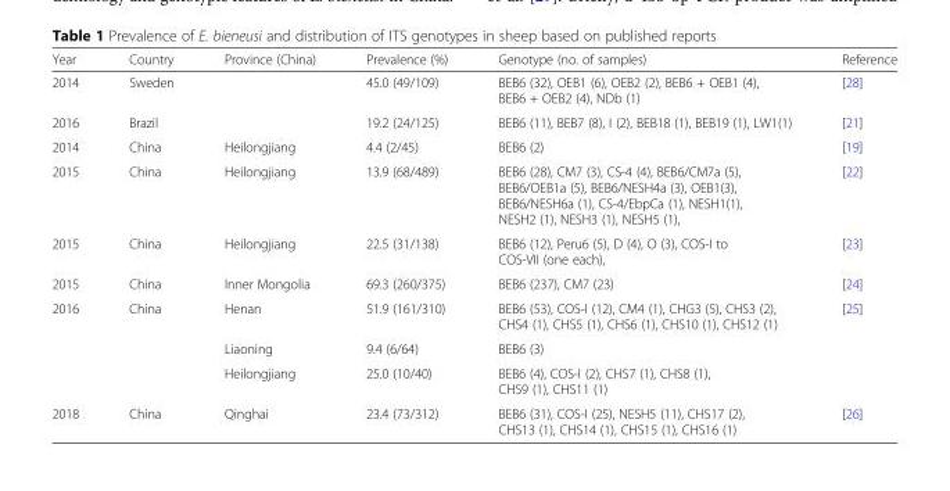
<table><thead><tr><td>Year</td><td>Country</td><td>Province (China)</td><td>Prevalence (%)</td><td>Genotype (no. of samples)</td><td>Reference</td></tr></thead><tbody><tr><td>2014</td><td>Sweden</td><td></td><td>45.0 (49/109)</td><td>BEB6 (32), OEB1 (6), OEB2 (2), BEB6 + OEB1 (4), BEB6 + OEB2 (4), NDb (1)</td><td>[28]</td></tr><tr><td>2016</td><td>Brazil</td><td></td><td>19.2 (24/125)</td><td>BEB6 (11), BEB7 (8), I (2), BEB18 (1), BEB19 (1), LW1(1)</td><td>[21]</td></tr><tr><td>2014</td><td>China</td><td>Heilongjiang</td><td>4.4 (2/45)</td><td>BEB6 (2)</td><td>[19]</td></tr><tr><td>2015</td><td>China</td><td>Heilongjiang</td><td>13.9 (68/489)</td><td>BEB6 (28), CM7 (3), CS-4 (4), BEB6/CM7a (5), BEB6/OEB1a (5), BEB6/NESH4a (3), OEB1(3), BEB6/NESH6a (1), CS-4/EbpCa (1), NESH1(1), NESH2 (1), NESH3 (1), NESH5 (1),</td><td>[22]</td></tr><tr><td>2015</td><td>China</td><td>Heilongjiang</td><td>22.5 (31/138)</td><td>BEB6 (12), Peru6 (5), D (4), O (3), COS-I to COS-VII (one each),</td><td>[23]</td></tr><tr><td>2015</td><td>China</td><td>Inner Mongolia</td><td>69.3 (260/375)</td><td>BEB6 (237), CM7 (23)</td><td>[24]</td></tr><tr><td rowspan="3">2016</td><td rowspan="3">China</td><td>Henan</td><td>51.9 (161/310)</td><td>BEB6 (53), COS-I (12), CM4 (1), CHG3 (5), CHS3 (2), CHS4 (1), CHS5 (1), CHS6 (1), CHS10 (1), CHS12 (1)</td><td rowspan="3">[25]</td></tr><tr><td>Liaoning</td><td>9.4 (6/64)</td><td>BEB6 (3)</td></tr><tr><td>Heilongjiang</td><td>25.0 (10/40)</td><td>BEB6 (4), COS-I (2), CHS7 (1), CHS8 (1), CHS9 (1), CHS11 (1)</td></tr><tr><td>2018</td><td>China</td><td>Qinghai</td><td>23.4 (73/312)</td><td>BEB6 (31), COS-I (25), NESH5 (11), CHS17 (2), CHS13 (1), CHS14 (1), CHS15 (1), CHS16 (1)</td><td>[26]</td></tr></tbody></table>